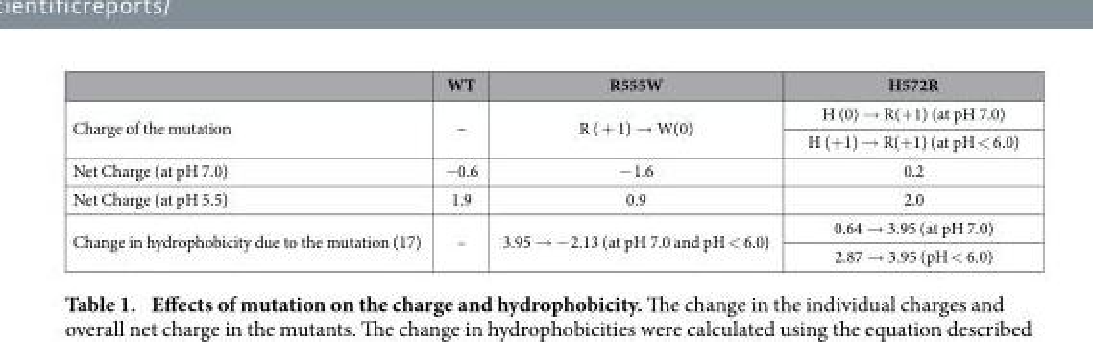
<table><thead><tr><td></td><td>WT</td><td>R555W</td><td>H572R</td></tr></thead><tbody><tr><td rowspan="2">Charge of the mutation</td><td rowspan="2">–</td><td rowspan="2">R ( + 1) → W(0)</td><td>H (0) → R(+1) (at pH 7.0)</td></tr><tr><td>H (+1) → R(+1) (at pH &lt; 6.0)</td></tr><tr><td>Net Charge (at pH 7.0)</td><td>−0.6</td><td>− 1.6</td><td>0.2</td></tr><tr><td>Net Charge (at pH 5.5)</td><td>1.9</td><td>0.9</td><td>2.0</td></tr><tr><td rowspan="2">Change in hydrophobicity due to the mutation (17)</td><td rowspan="2">–</td><td rowspan="2">3.95 → − 2.13 (at pH 7.0 and pH &lt; 6.0)</td><td>0.64 → 3.95 (at pH 7.0)</td></tr><tr><td>2.87 → 3.95 (pH &lt; 6.0)</td></tr></tbody></table>